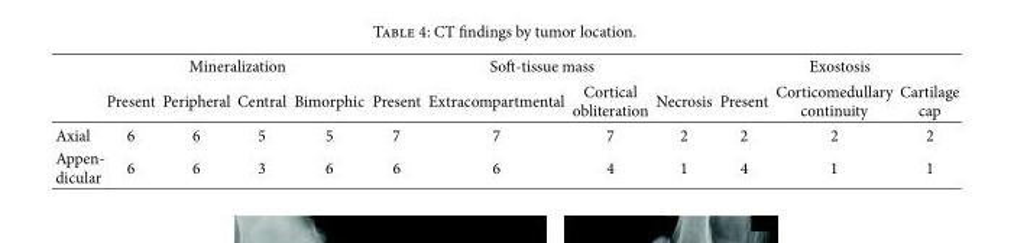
<table><thead><tr><td rowspan="2"></td><td colspan="4">Mineralization</td><td colspan="4">Soft-tissue mass</td><td colspan="3">Exostosis</td></tr><tr><td>Present</td><td>Peripheral</td><td>Central</td><td>Bimorphic</td><td>Present</td><td>Extracompartmental</td><td>Cortical obliteration</td><td>Necrosis</td><td>Present</td><td>Corticomedullary continuity</td><td>Cartilage cap</td></tr></thead><tbody><tr><td>Axial</td><td>6</td><td>6</td><td>5</td><td>5</td><td>7</td><td>7</td><td>7</td><td>2</td><td>2</td><td>2</td><td>2</td></tr><tr><td>Appen- dicular</td><td>6</td><td>6</td><td>3</td><td>6</td><td>6</td><td>6</td><td>4</td><td>1</td><td>4</td><td>1</td><td>1</td></tr></tbody></table>